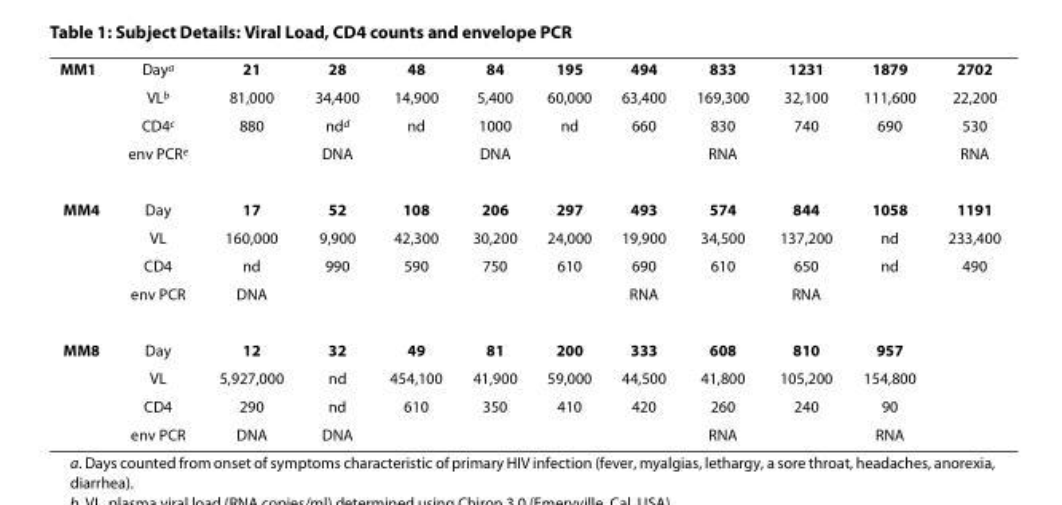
<table><tbody><tr><td rowspan="4">MM1</td><td>Day<sup>a</sup></td><td>21</td><td>28</td><td>48</td><td>84</td><td>195</td><td>494</td><td>833</td><td>1231</td><td>1879</td><td>2702</td></tr><tr><td>VL<sup>b</sup></td><td>81,000</td><td>34,400</td><td>14,900</td><td>5,400</td><td>60,000</td><td>63,400</td><td>169,300</td><td>32,100</td><td>111,600</td><td>22,200</td></tr><tr><td>CD4<sup>c</sup></td><td>880</td><td>nd<sup>d</sup></td><td>nd</td><td>1000</td><td>nd</td><td>660</td><td>830</td><td>740</td><td>690</td><td>530</td></tr><tr><td>env PCR<sup>e</sup></td><td></td><td>DNA</td><td></td><td>DNA</td><td></td><td></td><td>RNA</td><td></td><td></td><td>RNA</td></tr><tr><td rowspan="4">MM4</td><td>Day</td><td>17</td><td>52</td><td>108</td><td>206</td><td>297</td><td>493</td><td>574</td><td>844</td><td>1058</td><td>1191</td></tr><tr><td>VL</td><td>160,000</td><td>9,900</td><td>42,300</td><td>30,200</td><td>24,000</td><td>19,900</td><td>34,500</td><td>137,200</td><td>nd</td><td>233,400</td></tr><tr><td>CD4</td><td>nd</td><td>990</td><td>590</td><td>750</td><td>610</td><td>690</td><td>610</td><td>650</td><td>nd</td><td>490</td></tr><tr><td>env PCR</td><td>DNA</td><td></td><td></td><td></td><td></td><td>RNA</td><td></td><td>RNA</td><td></td><td></td></tr><tr><td rowspan="4">MM8</td><td>Day</td><td>12</td><td>32</td><td>49</td><td>81</td><td>200</td><td>333</td><td>608</td><td>810</td><td>957</td><td></td></tr><tr><td>VL</td><td>5,927,000</td><td>nd</td><td>454,100</td><td>41,900</td><td>59,000</td><td>44,500</td><td>41,800</td><td>105,200</td><td>154,800</td><td></td></tr><tr><td>CD4</td><td>290</td><td>nd</td><td>610</td><td>350</td><td>410</td><td>420</td><td>260</td><td>240</td><td>90</td><td></td></tr><tr><td>env PCR</td><td>DNA</td><td>DNA</td><td></td><td></td><td></td><td></td><td>RNA</td><td></td><td>RNA</td><td></td></tr></tbody></table>